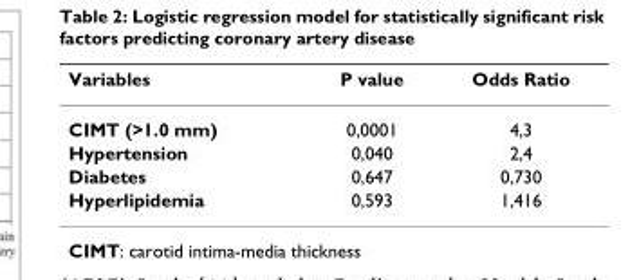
<table><thead><tr><td>Variables</td><td>P value</td><td>Odds Ratio</td></tr></thead><tbody><tr><td>CIMT (&gt;1.0 mm)</td><td>0,0001</td><td>4,3</td></tr><tr><td>Hypertension</td><td>0,040</td><td>2,4</td></tr><tr><td>Diabetes</td><td>0,647</td><td>0,730</td></tr><tr><td>Hyperlipidemia</td><td>0,593</td><td>1,416</td></tr></tbody></table>